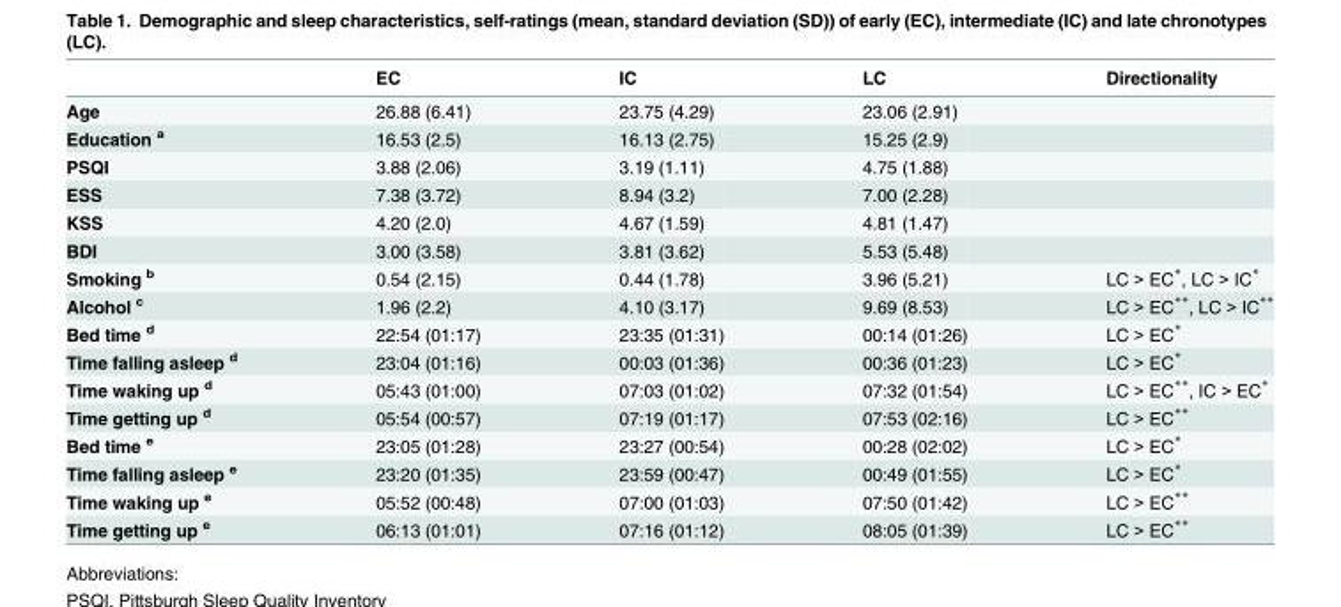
<table><thead><tr><td></td><td>EC</td><td>IC</td><td>LC</td><td>Directionality</td></tr></thead><tbody><tr><td>Age</td><td>26.88 (6.41)</td><td>23.75 (4.29)</td><td>23.06 (2.91)</td><td></td></tr><tr><td>Education <sup>a</sup></td><td>16.53 (2.5)</td><td>16.13 (2.75)</td><td>15.25 (2.9)</td><td></td></tr><tr><td>PSQI</td><td>3.88 (2.06)</td><td>3.19 (1.11)</td><td>4.75 (1.88)</td><td></td></tr><tr><td>ESS</td><td>7.38 (3.72)</td><td>8.94 (3.2)</td><td>7.00 (2.28)</td><td></td></tr><tr><td>KSS</td><td>4.20 (2.0)</td><td>4.67 (1.59)</td><td>4.81 (1.47)</td><td></td></tr><tr><td>BDI</td><td>3.00 (3.58)</td><td>3.81 (3.62)</td><td>5.53 (5.48)</td><td></td></tr><tr><td>Smoking <sup>b</sup></td><td>0.54 (2.15)</td><td>0.44 (1.78)</td><td>3.96 (5.21)</td><td>LC &gt; EC*, LC &gt; IC*</td></tr><tr><td>Alcohol <sup>c</sup></td><td>1.96 (2.2)</td><td>4.10 (3.17)</td><td>9.69 (8.53)</td><td>LC &gt; EC**, LC &gt; IC**</td></tr><tr><td>Bed time <sup>d</sup></td><td>22:54 (01:17)</td><td>23:35 (01:31)</td><td>00:14 (01:26)</td><td>LC &gt; EC*</td></tr><tr><td>Time falling asleep <sup>d</sup></td><td>23:04 (01:16)</td><td>00:03 (01:36)</td><td>00:36 (01:23)</td><td>LC &gt; EC*</td></tr><tr><td>Time waking up <sup>d</sup></td><td>05:43 (01:00)</td><td>07:03 (01:02)</td><td>07:32 (01:54)</td><td>LC &gt; EC**, IC &gt; EC*</td></tr><tr><td>Time getting up <sup>d</sup></td><td>05:54 (00:57)</td><td>07:19 (01:17)</td><td>07:53 (02:16)</td><td>LC &gt; EC**</td></tr><tr><td>Bed time <sup>e</sup></td><td>23:05 (01:28)</td><td>23:27 (00:54)</td><td>00:28 (02:02)</td><td>LC &gt; EC*</td></tr><tr><td>Time falling asleep <sup>e</sup></td><td>23:20 (01:35)</td><td>23:59 (00:47)</td><td>00:49 (01:55)</td><td>LC &gt; EC*</td></tr><tr><td>Time waking up <sup>e</sup></td><td>05:52 (00:48)</td><td>07:00 (01:03)</td><td>07:50 (01:42)</td><td>LC &gt; EC**</td></tr><tr><td>Time getting up <sup>e</sup></td><td>06:13 (01:01)</td><td>07:16 (01:12)</td><td>08:05 (01:39)</td><td>LC &gt; EC**</td></tr></tbody></table>